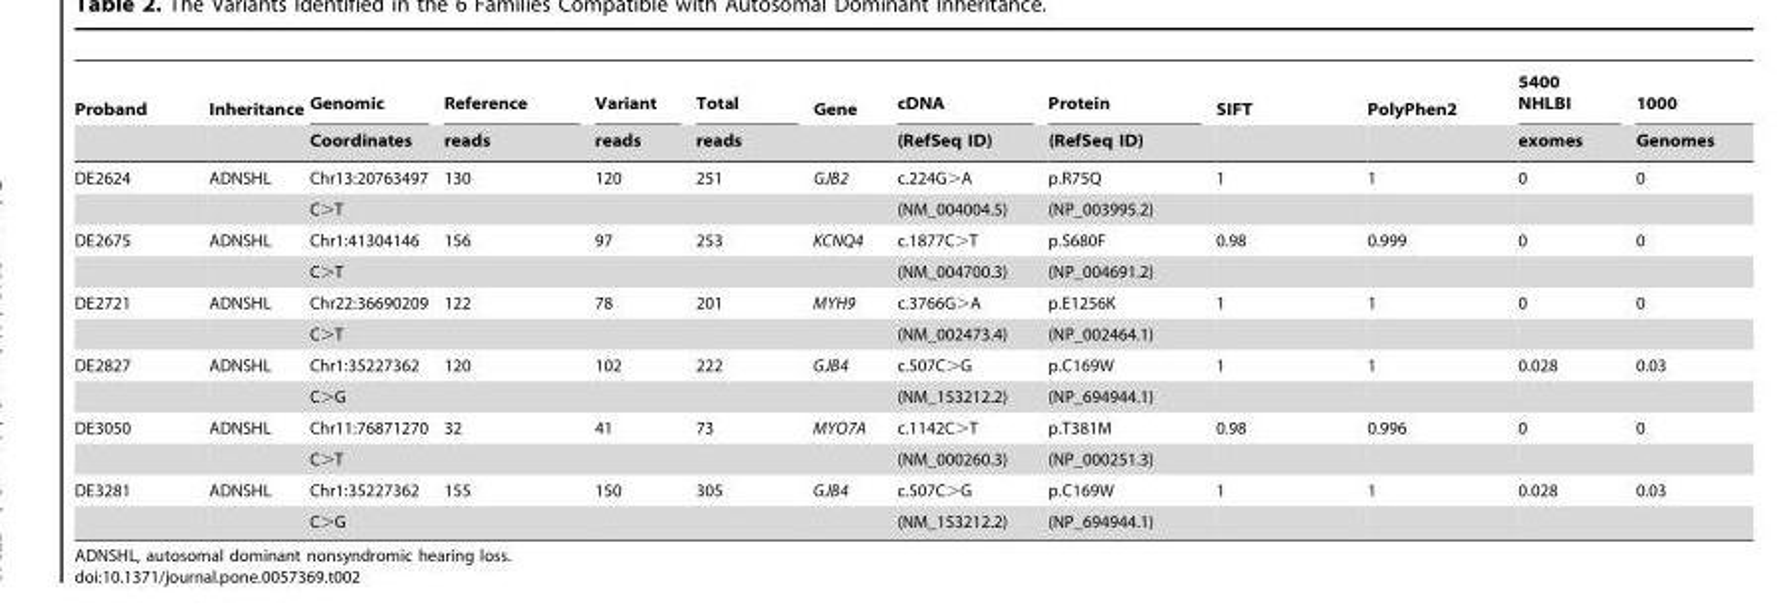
<table><thead><tr><td rowspan="2">Proband</td><td rowspan="2">Inheritance</td><td rowspan="2">Genomic Coordinates</td><td rowspan="2">Reference reads</td><td rowspan="2">Variant reads</td><td rowspan="2">Total reads</td><td rowspan="2">Gene</td><td rowspan="2">cDNA (RefSeq ID)</td><td rowspan="2">Protein (RefSeq ID)</td><td rowspan="2">SIFT</td><td rowspan="2">PolyPhen2</td><td rowspan="2">5400 NHLBI exomes</td><td rowspan="2">1000 Genomes</td></tr><tr></tr></thead><tbody><tr><td rowspan="2">DE2624</td><td>ADNSHL</td><td>Chr13:20763497</td><td>130</td><td>120</td><td>251</td><td>GJB2</td><td>c.224G&gt;A</td><td>p.R75Q</td><td>1</td><td>1</td><td>0</td><td>0</td></tr><tr><td></td><td>C&gt;T</td><td></td><td></td><td></td><td></td><td>(NM_004004.5)</td><td>(NP_003995.2)</td><td></td><td></td><td></td><td></td></tr><tr><td rowspan="2">DE2675</td><td>ADNSHL</td><td>Chr1:41304146</td><td>156</td><td>97</td><td>253</td><td>KCNQ4</td><td>c.1877C&gt;T</td><td>p.S680F</td><td>0.98</td><td>0.999</td><td>0</td><td>0</td></tr><tr><td></td><td>C&gt;T</td><td></td><td></td><td></td><td></td><td>(NM_004700.3)</td><td>(NP_004691.2)</td><td></td><td></td><td></td><td></td></tr><tr><td rowspan="2">DE2721</td><td>ADNSHL</td><td>Chr22:36690209</td><td>122</td><td>78</td><td>201</td><td>MYH9</td><td>c.3766G&gt;A</td><td>p.E1256K</td><td>1</td><td>1</td><td>0</td><td>0</td></tr><tr><td></td><td>C&gt;T</td><td></td><td></td><td></td><td></td><td>(NM_002473.4)</td><td>(NP_002464.1)</td><td></td><td></td><td></td><td></td></tr><tr><td rowspan="2">DE2827</td><td>ADNSHL</td><td>Chr1:35227362</td><td>120</td><td>102</td><td>222</td><td>GJB4</td><td>c.507C&gt;G</td><td>p.C169W</td><td>1</td><td>1</td><td>0.028</td><td>0.03</td></tr><tr><td></td><td>C&gt;G</td><td></td><td></td><td></td><td></td><td>(NM_153212.2)</td><td>(NP_694944.1)</td><td></td><td></td><td></td><td></td></tr><tr><td rowspan="2">DE3050</td><td>ADNSHL</td><td>Chr11:76871270</td><td>32</td><td>41</td><td>73</td><td>MYO7A</td><td>c.1142C&gt;T</td><td>p.T381M</td><td>0.98</td><td>0.996</td><td>0</td><td>0</td></tr><tr><td></td><td>C&gt;T</td><td></td><td></td><td></td><td></td><td>(NM_000260.3)</td><td>(NP_000251.3)</td><td></td><td></td><td></td><td></td></tr><tr><td rowspan="2">DE3281</td><td>ADNSHL</td><td>Chr1:35227362</td><td>155</td><td>150</td><td>305</td><td>GJB4</td><td>c.507C&gt;G</td><td>p.C169W</td><td>1</td><td>1</td><td>0.028</td><td>0.03</td></tr><tr><td></td><td>C&gt;G</td><td></td><td></td><td></td><td></td><td>(NM_153212.2)</td><td>(NP_694944.1)</td><td></td><td></td><td></td><td></td></tr></tbody></table>